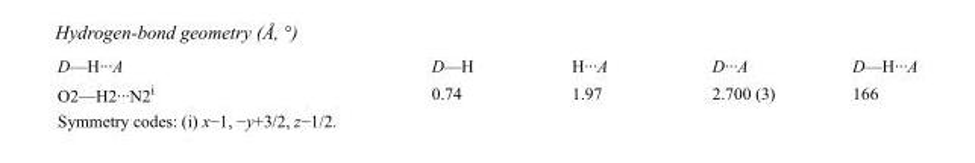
<table><tbody><tr><td>D—H···A</td><td>D—H</td><td>H···A</td><td>D···A</td><td>D—H···A</td></tr><tr><td>O2—H2···N2<sup>i</sup></td><td>0.74</td><td>1.97</td><td>2.700 (3)</td><td>166</td></tr></tbody></table>